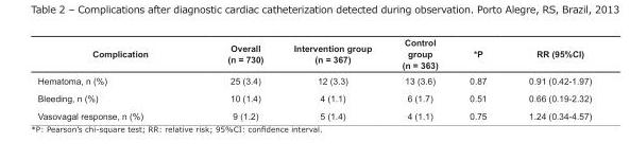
<table><tbody><tr><td>Complication</td><td>Overall (n = 730)</td><td>Intervention group (n = 367)</td><td>Control group (n = 363)</td><td>*P</td><td>RR (95%CI)</td></tr><tr><td>Hematoma, n (%)</td><td>25 (3.4)</td><td>12 (3.3)</td><td>13 (3.6)</td><td>0.87</td><td>0.91 (0.42-1.97)</td></tr><tr><td>Bleeding, n (%)</td><td>10 (1.4)</td><td>4 (1.1)</td><td>6 (1.7)</td><td>0.51</td><td>0.66 (0.19-2.32)</td></tr><tr><td>Vasovagal response, n (%)</td><td>9 (1.2)</td><td>5 (1.4)</td><td>4 (1.1)</td><td>0.75</td><td>1.24 (0.34-4.57)</td></tr></tbody></table>